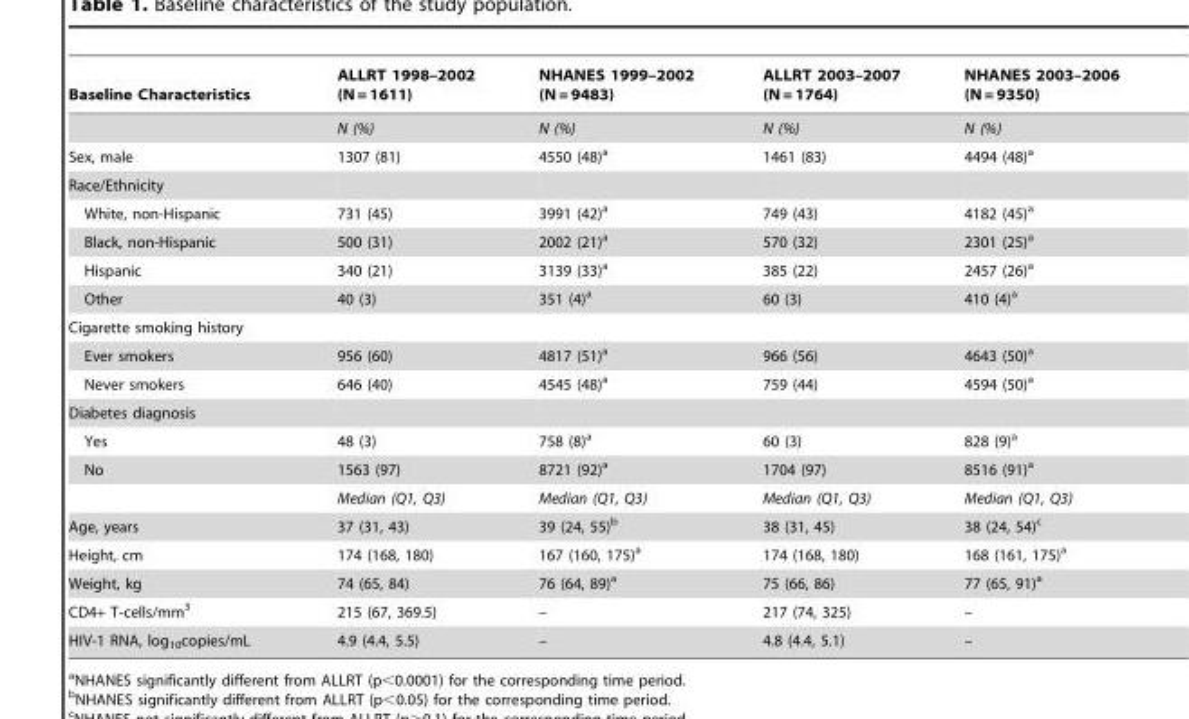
<table><thead><tr><td>Baseline Characteristics</td><td>ALLRT 1998–2002 (N = 1611)</td><td>NHANES 1999–2002 (N = 9483)</td><td>ALLRT 2003–2007 (N = 1764)</td><td>NHANES 2003–2006 (N = 9350)</td></tr></thead><tbody><tr><td></td><td>N (%)</td><td>N (%)</td><td>N (%)</td><td>N (%)</td></tr><tr><td>Sex, male</td><td>1307 (81)</td><td>4550 (48)<sup>a</sup></td><td>1461 (83)</td><td>4494 (48)<sup>a</sup></td></tr><tr><td colspan="5">Race/Ethnicity</td></tr><tr><td>White, non-Hispanic</td><td>731 (45)</td><td>3991 (42)<sup>a</sup></td><td>749 (43)</td><td>4182 (45)<sup>a</sup></td></tr><tr><td>Black, non-Hispanic</td><td>500 (31)</td><td>2002 (21)<sup>a</sup></td><td>570 (32)</td><td>2301 (25)<sup>a</sup></td></tr><tr><td>Hispanic</td><td>340 (21)</td><td>3139 (33)<sup>a</sup></td><td>385 (22)</td><td>2457 (26)<sup>a</sup></td></tr><tr><td>Other</td><td>40 (3)</td><td>351 (4)<sup>a</sup></td><td>60 (3)</td><td>410 (4)<sup>a</sup></td></tr><tr><td colspan="5">Cigarette smoking history</td></tr><tr><td>Ever smokers</td><td>956 (60)</td><td>4817 (51)<sup>a</sup></td><td>966 (56)</td><td>4643 (50)<sup>a</sup></td></tr><tr><td>Never smokers</td><td>646 (40)</td><td>4545 (48)<sup>a</sup></td><td>759 (44)</td><td>4594 (50)<sup>a</sup></td></tr><tr><td colspan="5">Diabetes diagnosis</td></tr><tr><td>Yes</td><td>48 (3)</td><td>758 (8)<sup>a</sup></td><td>60 (3)</td><td>828 (9)<sup>a</sup></td></tr><tr><td rowspan="2">No</td><td>1563 (97)</td><td>8721 (92)<sup>a</sup></td><td>1704 (97)</td><td>8516 (91)<sup>a</sup></td></tr><tr><td>Median (Q1, Q3)</td><td>Median (Q1, Q3)</td><td>Median (Q1, Q3)</td><td>Median (Q1, Q3)</td></tr><tr><td>Age, years</td><td>37 (31, 43)</td><td>39 (24, 55)<sup>b</sup></td><td>38 (31, 45)</td><td>38 (24, 54)<sup>c</sup></td></tr><tr><td>Height, cm</td><td>174 (168, 180)</td><td>167 (160, 175)<sup>a</sup></td><td>174 (168, 180)</td><td>168 (161, 175)<sup>a</sup></td></tr><tr><td>Weight, kg</td><td>74 (65, 84)</td><td>76 (64, 89)<sup>a</sup></td><td>75 (66, 86)</td><td>77 (65, 91)<sup>a</sup></td></tr><tr><td>CD4+ T-cells/mm<sup>3</sup></td><td>215 (67, 369.5)</td><td>–</td><td>217 (74, 325)</td><td>–</td></tr><tr><td>HIV-1 RNA, log<sub>10</sub>copies/mL</td><td>4.9 (4.4, 5.5)</td><td>–</td><td>4.8 (4.4, 5.1)</td><td>–</td></tr></tbody></table>